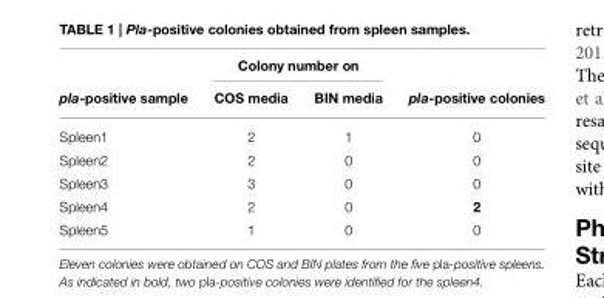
<table><thead><tr><td rowspan="2">pla-positive sample</td><td colspan="2">Colony number on</td><td rowspan="2">pla-positive colonies</td></tr><tr><td>COS media</td><td>BIN media</td></tr></thead><tbody><tr><td>Spleen1</td><td>2</td><td>1</td><td>0</td></tr><tr><td>Spleen2</td><td>2</td><td>0</td><td>0</td></tr><tr><td>Spleen3</td><td>3</td><td>0</td><td>0</td></tr><tr><td>Spleen4</td><td>2</td><td>0</td><td>2</td></tr><tr><td>Spleen5</td><td>1</td><td>0</td><td>0</td></tr></tbody></table>